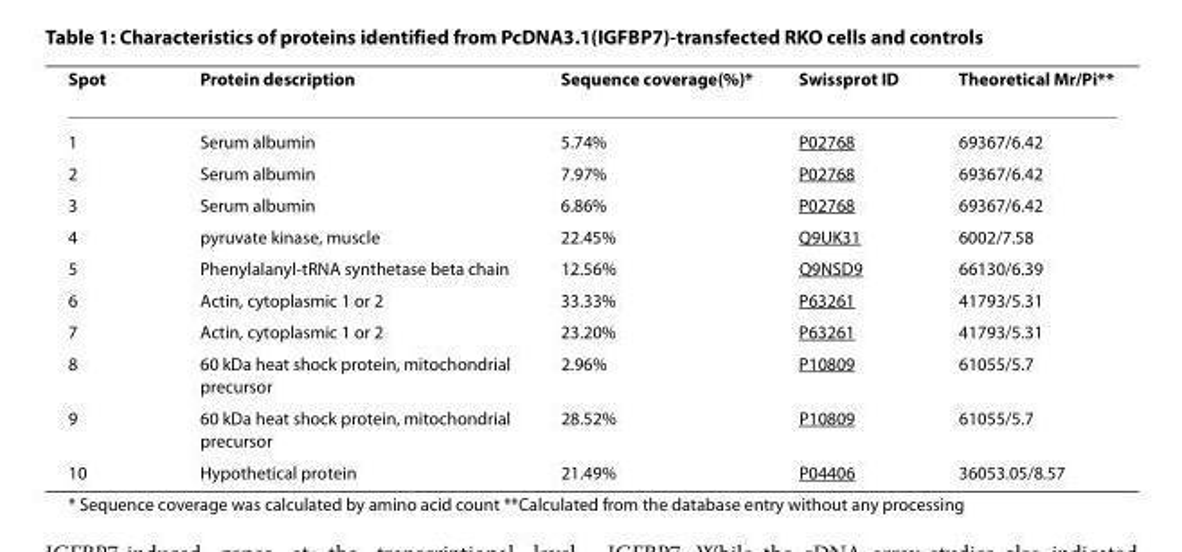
<table><thead><tr><td>Spot</td><td>Protein description</td><td>Sequence coverage(%)*</td><td>Swissprot ID</td><td>Theoretical Mr/Pi**</td></tr></thead><tbody><tr><td>1</td><td>Serum albumin</td><td>5.74%</td><td>P02768</td><td>69367/6.42</td></tr><tr><td>2</td><td>Serum albumin</td><td>7.97%</td><td>P02768</td><td>69367/6.42</td></tr><tr><td>3</td><td>Serum albumin</td><td>6.86%</td><td>P02768</td><td>69367/6.42</td></tr><tr><td>4</td><td>pyruvate kinase, muscle</td><td>22.45%</td><td>Q9UK31</td><td>6002/7.58</td></tr><tr><td>5</td><td>Phenylalanyl-tRNA synthetase beta chain</td><td>12.56%</td><td>Q9NSD9</td><td>66130/6.39</td></tr><tr><td>6</td><td>Actin, cytoplasmic 1 or 2</td><td>33.33%</td><td>P63261</td><td>41793/5.31</td></tr><tr><td>7</td><td>Actin, cytoplasmic 1 or 2</td><td>23.20%</td><td>P63261</td><td>41793/5.31</td></tr><tr><td>8</td><td>60 kDa heat shock protein, mitochondrial precursor</td><td>2.96%</td><td>P10809</td><td>61055/5.7</td></tr><tr><td>9</td><td>60 kDa heat shock protein, mitochondrial precursor</td><td>28.52%</td><td>P10809</td><td>61055/5.7</td></tr><tr><td>10</td><td>Hypothetical protein</td><td>21.49%</td><td>P04406</td><td>36053.05/8.57</td></tr></tbody></table>